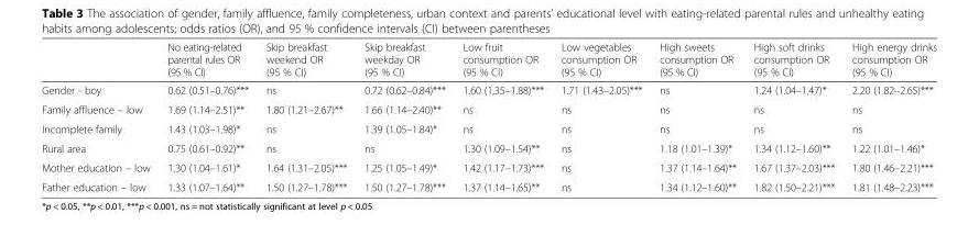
<table><thead><tr><td></td><td>No eating-related parental rules OR (95 % CI)</td><td>Skip breakfast weekend OR (95 % CI)</td><td>Skip breakfast weekday OR (95 % CI)</td><td>Low fruit consumption OR (95 % CI)</td><td>Low vegetables consumption OR (95 % CI)</td><td>High sweets consumption OR (95 % CI)</td><td>High soft drinks consumption OR (95 % CI)</td><td>High energy drinks consumption OR (95 % CI)</td></tr></thead><tbody><tr><td>Gender - boy</td><td>0.62 (0.51–0.76)***</td><td>ns</td><td>0.72 (0.62–0.84)***</td><td>1.60 (1,35–1.88)***</td><td>1.71 (1.43–2.05)***</td><td>ns</td><td>1.24 (1.04–1.47)*</td><td>2.20 (1.82–2.65)***</td></tr><tr><td>Family affluence – low</td><td>1.69 (1.14–2.51)**</td><td>1.80 (1.21–2.67)**</td><td>1.66 (1.14–2.40)**</td><td>ns</td><td>ns</td><td>ns</td><td>ns</td><td>ns</td></tr><tr><td>Incomplete family</td><td>1.43 (1.03–1.98)*</td><td>ns</td><td>1.39 (1.05–1.84)*</td><td>ns</td><td>ns</td><td>ns</td><td>ns</td><td>ns</td></tr><tr><td>Rural area</td><td>0.75 (0.61–0.92)**</td><td>ns</td><td>ns</td><td>1.30 (1.09–1.54)**</td><td>ns</td><td>1.18 (1.01–1.39)*</td><td>1.34 (1.12–1.60)**</td><td>1.22 (1.01–1.46)*</td></tr><tr><td>Mother education – low</td><td>1.30 (1.04–1.61)*</td><td>1.64 (1.31–2.05)***</td><td>1.25 (1.05–1.49)*</td><td>1.42 (1.17–1.73)***</td><td>ns</td><td>1.37 (1.14–1.64)**</td><td>1.67 (1.37–2.03)***</td><td>1.80 (1.46–2.21)***</td></tr><tr><td>Father education – low</td><td>1.33 (1.07–1.64)**</td><td>1.50 (1.27–1.78)***</td><td>1.50 (1.27–1.78)***</td><td>1.37 (1.14–1.65)**</td><td>ns</td><td>1.34 (1.12–1.60)**</td><td>1.82 (1.50–2.21)***</td><td>1.81 (1.48–2.23)***</td></tr></tbody></table>